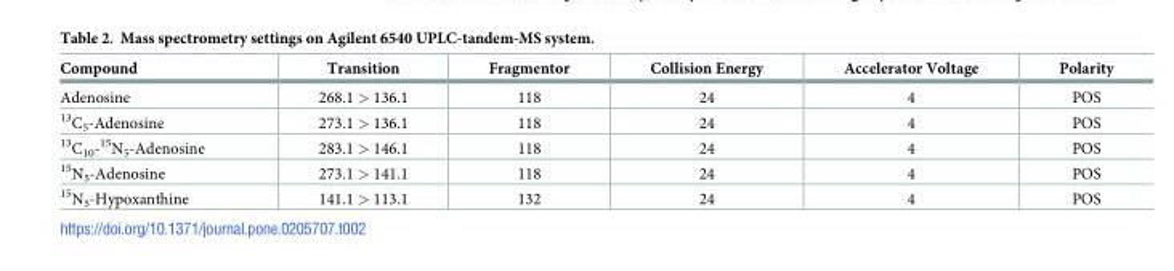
<table><thead><tr><td>Compound</td><td>Transition</td><td>Fragmentor</td><td>Collision Energy</td><td>Accelerator Voltage</td><td>Polarity</td></tr></thead><tbody><tr><td>Adenosine</td><td>268.1 &gt; 136.1</td><td>118</td><td>24</td><td>4</td><td>POS</td></tr><tr><td><sup>13</sup>C<sub>5</sub>-Adenosine</td><td>273.1 &gt; 136.1</td><td>118</td><td>24</td><td>4</td><td>POS</td></tr><tr><td><sup>13</sup>C<sub>10</sub>-<sup>15</sup>N<sub>5</sub>-Adenosine</td><td>283.1 &gt; 146.1</td><td>118</td><td>24</td><td>4</td><td>POS</td></tr><tr><td><sup>15</sup>N<sub>5</sub>-Adenosine</td><td>273.1 &gt; 141.1</td><td>118</td><td>24</td><td>4</td><td>POS</td></tr><tr><td><sup>15</sup>N<sub>5</sub>-Hypoxanthine</td><td>141.1 &gt; 113.1</td><td>132</td><td>24</td><td>4</td><td>POS</td></tr></tbody></table>